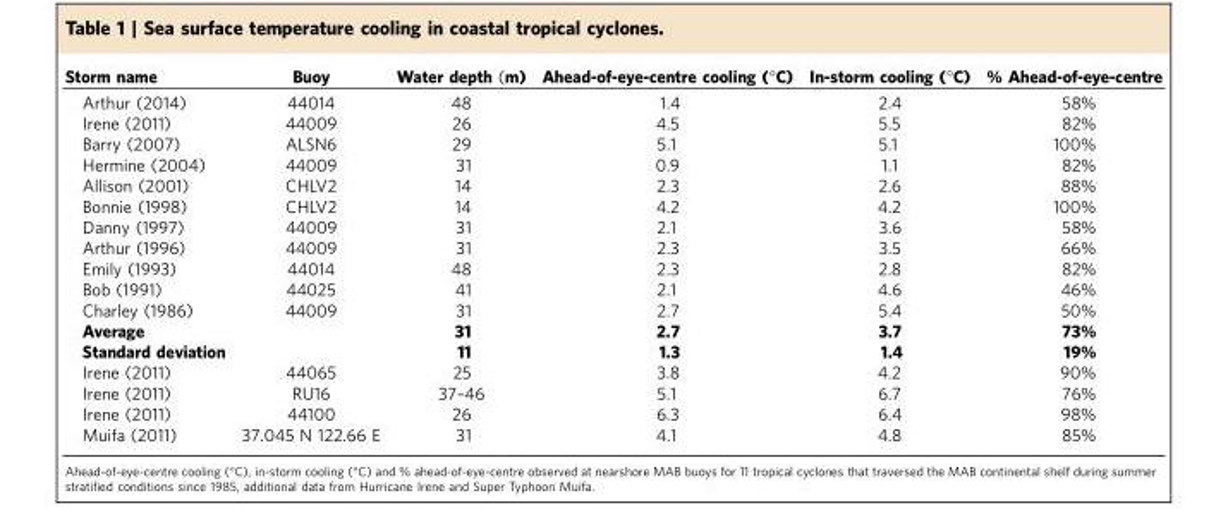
<table><thead><tr><td>Storm name</td><td>Buoy</td><td>Water depth (m)</td><td>Ahead-of-eye-centre cooling (°C)</td><td>In-storm cooling (°C)</td><td>% Ahead-of-eye-centre</td></tr></thead><tbody><tr><td>Arthur (2014)</td><td>44014</td><td>48</td><td>1.4</td><td>2.4</td><td>58%</td></tr><tr><td>Irene (2011)</td><td>44009</td><td>26</td><td>4.5</td><td>5.5</td><td>82%</td></tr><tr><td>Barry (2007)</td><td>ALSN6</td><td>29</td><td>5.1</td><td>5.1</td><td>100%</td></tr><tr><td>Hermine (2004)</td><td>44009</td><td>31</td><td>0.9</td><td>1.1</td><td>82%</td></tr><tr><td>Allison (2001)</td><td>CHLV2</td><td>14</td><td>2.3</td><td>2.6</td><td>88%</td></tr><tr><td>Bonnie (1998)</td><td>CHLV2</td><td>14</td><td>4.2</td><td>4.2</td><td>100%</td></tr><tr><td>Danny (1997)</td><td>44009</td><td>31</td><td>2.1</td><td>3.6</td><td>58%</td></tr><tr><td>Arthur (1996)</td><td>44009</td><td>31</td><td>2.3</td><td>3.5</td><td>66%</td></tr><tr><td>Emily (1993)</td><td>44014</td><td>48</td><td>2.3</td><td>2.8</td><td>82%</td></tr><tr><td>Bob (1991)</td><td>44025</td><td>41</td><td>2.1</td><td>4.6</td><td>46%</td></tr><tr><td>Charley (1986)</td><td>44009</td><td>31</td><td>2.7</td><td>5.4</td><td>50%</td></tr><tr><td>Average</td><td></td><td>31</td><td>2.7</td><td>3.7</td><td>73%</td></tr><tr><td>Standard deviation</td><td></td><td>11</td><td>1.3</td><td>1.4</td><td>19%</td></tr><tr><td>Irene (2011)</td><td>44065</td><td>25</td><td>3.8</td><td>4.2</td><td>90%</td></tr><tr><td>Irene (2011)</td><td>RU16</td><td>37–46</td><td>5.1</td><td>6.7</td><td>76%</td></tr><tr><td>Irene (2011)</td><td>44100</td><td>26</td><td>6.3</td><td>6.4</td><td>98%</td></tr><tr><td>Muifa (2011)</td><td>37.045 N 122.66 E</td><td>31</td><td>4.1</td><td>4.8</td><td>85%</td></tr></tbody></table>